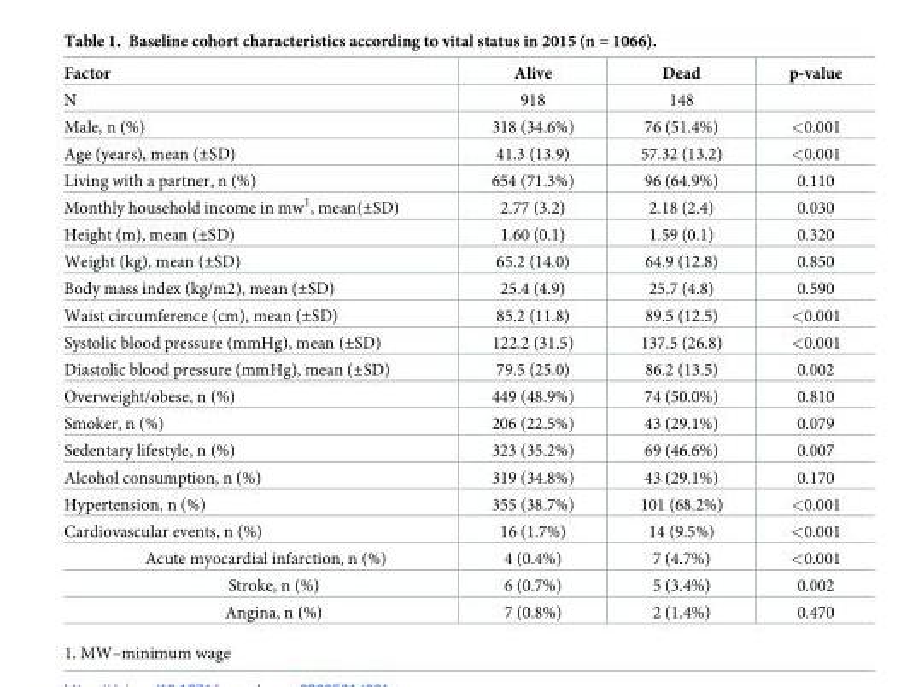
<table><thead><tr><td>Factor</td><td>Alive</td><td>Dead</td><td>p-value</td></tr></thead><tbody><tr><td>N</td><td>918</td><td>148</td><td></td></tr><tr><td>Male, n (%)</td><td>318 (34.6%)</td><td>76 (51.4%)</td><td>&lt;0.001</td></tr><tr><td>Age (years), mean (±SD)</td><td>41.3 (13.9)</td><td>57.32 (13.2)</td><td>&lt;0.001</td></tr><tr><td>Living with a partner, n (%)</td><td>654 (71.3%)</td><td>96 (64.9%)</td><td>0.110</td></tr><tr><td>Monthly household income in mw<sup>1</sup>, mean(±SD)</td><td>2.77 (3.2)</td><td>2.18 (2.4)</td><td>0.030</td></tr><tr><td>Height (m), mean (±SD)</td><td>1.60 (0.1)</td><td>1.59 (0.1)</td><td>0.320</td></tr><tr><td>Weight (kg), mean (±SD)</td><td>65.2 (14.0)</td><td>64.9 (12.8)</td><td>0.850</td></tr><tr><td>Body mass index (kg/m2), mean (±SD)</td><td>25.4 (4.9)</td><td>25.7 (4.8)</td><td>0.590</td></tr><tr><td>Waist circumference (cm), mean (±SD)</td><td>85.2 (11.8)</td><td>89.5 (12.5)</td><td>&lt;0.001</td></tr><tr><td>Systolic blood pressure (mmHg), mean (±SD)</td><td>122.2 (31.5)</td><td>137.5 (26.8)</td><td>&lt;0.001</td></tr><tr><td>Diastolic blood pressure (mmHg), mean (±SD)</td><td>79.5 (25.0)</td><td>86.2 (13.5)</td><td>0.002</td></tr><tr><td>Overweight/obese, n (%)</td><td>449 (48.9%)</td><td>74 (50.0%)</td><td>0.810</td></tr><tr><td>Smoker, n (%)</td><td>206 (22.5%)</td><td>43 (29.1%)</td><td>0.079</td></tr><tr><td>Sedentary lifestyle, n (%)</td><td>323 (35.2%)</td><td>69 (46.6%)</td><td>0.007</td></tr><tr><td>Alcohol consumption, n (%)</td><td>319 (34.8%)</td><td>43 (29.1%)</td><td>0.170</td></tr><tr><td>Hypertension, n (%)</td><td>355 (38.7%)</td><td>101 (68.2%)</td><td>&lt;0.001</td></tr><tr><td>Cardiovascular events, n (%)</td><td>16 (1.7%)</td><td>14 (9.5%)</td><td>&lt;0.001</td></tr><tr><td>Acute myocardial infarction, n (%)</td><td>4 (0.4%)</td><td>7 (4.7%)</td><td>&lt;0.001</td></tr><tr><td>Stroke, n (%)</td><td>6 (0.7%)</td><td>5 (3.4%)</td><td>0.002</td></tr><tr><td>Angina, n (%)</td><td>7 (0.8%)</td><td>2 (1.4%)</td><td>0.470</td></tr></tbody></table>